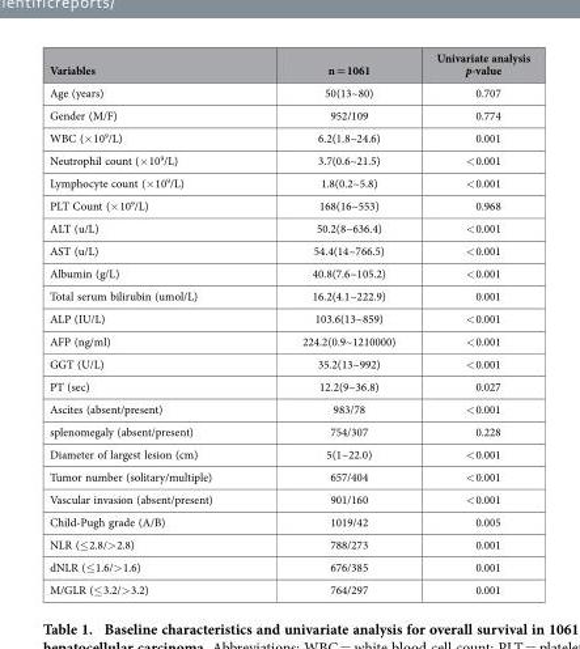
<table><thead><tr><td>Variables</td><td>n = 1061</td><td>Univariate analysis p-value</td></tr></thead><tbody><tr><td>Age (years)</td><td>50(13~80)</td><td>0.707</td></tr><tr><td>Gender (M/F)</td><td>952/109</td><td>0.774</td></tr><tr><td>WBC (× 10<sup>9</sup>/L)</td><td>6.2(1.8~24.6)</td><td>0.001</td></tr><tr><td>Neutrophil count (× 10<sup>9</sup>/L)</td><td>3.7(0.6~21.5)</td><td>&lt; 0.001</td></tr><tr><td>Lymphocyte count (× 10<sup>9</sup>/L)</td><td>1.8(0.2~5.8)</td><td>&lt; 0.001</td></tr><tr><td>PLT Count (× 10<sup>9</sup>/L)</td><td>168(16~553)</td><td>0.968</td></tr><tr><td>ALT (u/L)</td><td>50.2(8~636.4)</td><td>&lt; 0.001</td></tr><tr><td>AST (u/L)</td><td>54.4(14~766.5)</td><td>&lt; 0.001</td></tr><tr><td>Albumin (g/L)</td><td>40.8(7.6~105.2)</td><td>&lt; 0.001</td></tr><tr><td>Total serum bilirubin (umol/L)</td><td>16.2(4.1~222.9)</td><td>0.001</td></tr><tr><td>ALP (IU/L)</td><td>103.6(13~859)</td><td>&lt; 0.001</td></tr><tr><td>AFP (ng/ml)</td><td>224.2(0.9~1210000)</td><td>&lt; 0.001</td></tr><tr><td>GGT (U/L)</td><td>35.2(13~992)</td><td>&lt; 0.001</td></tr><tr><td>PT (sec)</td><td>12.2(9~36.8)</td><td>0.027</td></tr><tr><td>Ascites (absent/present)</td><td>983/78</td><td>&lt; 0.001</td></tr><tr><td>splenomegaly (absent/present)</td><td>754/307</td><td>0.228</td></tr><tr><td>Diameter of largest lesion (cm)</td><td>5(1~22.0)</td><td>&lt; 0.001</td></tr><tr><td>Tumor number (solitary/multiple)</td><td>657/404</td><td>&lt; 0.001</td></tr><tr><td>Vascular invasion (absent/present)</td><td>901/160</td><td>&lt; 0.001</td></tr><tr><td>Child-Pugh grade (A/B)</td><td>1019/42</td><td>0.005</td></tr><tr><td>NLR (≤ 2.8/&gt; 2.8)</td><td>788/273</td><td>0.001</td></tr><tr><td>dNLR (≤ 1.6/&gt; 1.6)</td><td>676/385</td><td>0.001</td></tr><tr><td>M/GLR (≤ 3.2/&gt; 3.2)</td><td>764/297</td><td>0.001</td></tr></tbody></table>